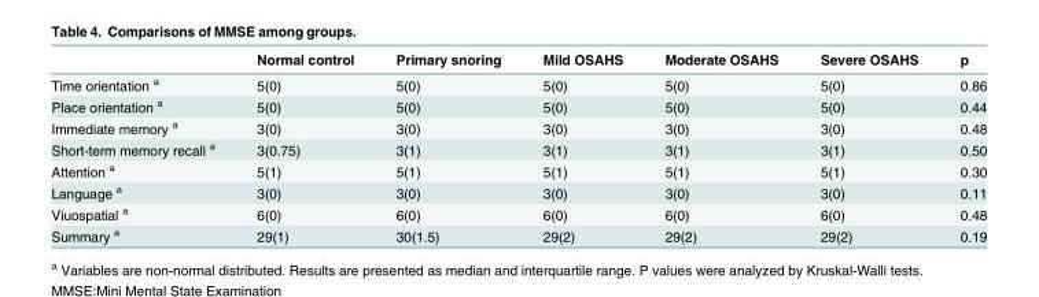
<table><thead><tr><td></td><td>Normal control</td><td>Primary snoring</td><td>Mild OSAHS</td><td>Moderate OSAHS</td><td>Severe OSAHS</td><td>p</td></tr></thead><tbody><tr><td>Time orientation <sup>a</sup></td><td>5(0)</td><td>5(0)</td><td>5(0)</td><td>5(0)</td><td>5(0)</td><td>0.86</td></tr><tr><td>Place orientation <sup>a</sup></td><td>5(0)</td><td>5(0)</td><td>5(0)</td><td>5(0)</td><td>5(0)</td><td>0.44</td></tr><tr><td>Immediate memory <sup>a</sup></td><td>3(0)</td><td>3(0)</td><td>3(0)</td><td>3(0)</td><td>3(0)</td><td>0.48</td></tr><tr><td>Short-term memory recall <sup>a</sup></td><td>3(0.75)</td><td>3(1)</td><td>3(1)</td><td>3(1)</td><td>3(1)</td><td>0.50</td></tr><tr><td>Attention <sup>a</sup></td><td>5(1)</td><td>5(1)</td><td>5(1)</td><td>5(1)</td><td>5(1)</td><td>0.30</td></tr><tr><td>Language <sup>a</sup></td><td>3(0)</td><td>3(0)</td><td>3(0)</td><td>3(0)</td><td>3(0)</td><td>0.11</td></tr><tr><td>Viuospatial <sup>a</sup></td><td>6(0)</td><td>6(0)</td><td>6(0)</td><td>6(0)</td><td>6(0)</td><td>0.48</td></tr><tr><td>Summary <sup>a</sup></td><td>29(1)</td><td>30(1.5)</td><td>29(2)</td><td>29(2)</td><td>29(2)</td><td>0.19</td></tr></tbody></table>